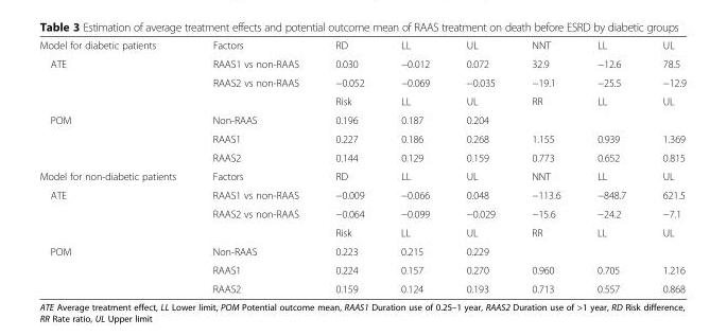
<table><tbody><tr><td>Model for diabetic patients</td><td>Factors</td><td>RD</td><td>LL</td><td>UL</td><td>NNT</td><td>LL</td><td>UL</td></tr><tr><td rowspan="3">ATE</td><td>RAAS1 vs non-RAAS</td><td>0.030</td><td>−0.012</td><td>0.072</td><td>32.9</td><td>−12.6</td><td>78.5</td></tr><tr><td>RAAS2 vs non-RAAS</td><td>−0.052</td><td>−0.069</td><td>−0.035</td><td>−19.1</td><td>−25.5</td><td>−12.9</td></tr><tr><td></td><td>Risk</td><td>LL</td><td>UL</td><td>RR</td><td>LL</td><td>UL</td></tr><tr><td rowspan="3">POM</td><td>Non-RAAS</td><td>0.196</td><td>0.187</td><td>0.204</td><td></td><td></td><td></td></tr><tr><td>RAAS1</td><td>0.227</td><td>0.186</td><td>0.268</td><td>1.155</td><td>0.939</td><td>1.369</td></tr><tr><td>RAAS2</td><td>0.144</td><td>0.129</td><td>0.159</td><td>0.773</td><td>0.652</td><td>0.815</td></tr><tr><td>Model for non-diabetic patients</td><td>Factors</td><td>RD</td><td>LL</td><td>UL</td><td>NNT</td><td>LL</td><td>UL</td></tr><tr><td rowspan="3">ATE</td><td>RAAS1 vs non-RAAS</td><td>−0.009</td><td>−0.066</td><td>0.048</td><td>−113.6</td><td>−848.7</td><td>621.5</td></tr><tr><td>RAAS2 vs non-RAAS</td><td>−0.064</td><td>−0.099</td><td>−0.029</td><td>−15.6</td><td>−24.2</td><td>−7.1</td></tr><tr><td></td><td>Risk</td><td>LL</td><td>UL</td><td>RR</td><td>LL</td><td>UL</td></tr><tr><td rowspan="3">POM</td><td>Non-RAAS</td><td>0.223</td><td>0.215</td><td>0.229</td><td></td><td></td><td></td></tr><tr><td>RAAS1</td><td>0.224</td><td>0.157</td><td>0.270</td><td>0.960</td><td>0.705</td><td>1.216</td></tr><tr><td>RAAS2</td><td>0.159</td><td>0.124</td><td>0.193</td><td>0.713</td><td>0.557</td><td>0.868</td></tr></tbody></table>